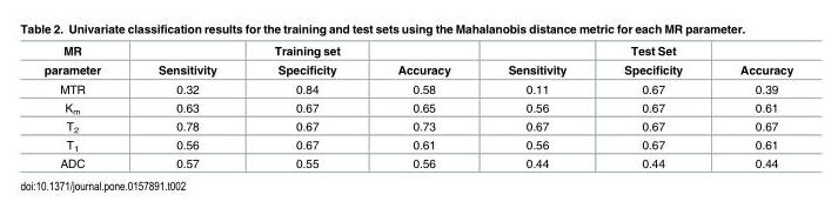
<table><thead><tr><td rowspan="2">MR parameter</td><td rowspan="2">Sensitivity</td><td rowspan="2">Training set Specificity</td><td rowspan="2">Accuracy</td><td rowspan="2">Sensitivity</td><td rowspan="2">Test Set Specificity</td><td rowspan="2">Accuracy</td></tr><tr></tr></thead><tbody><tr><td>MTR</td><td>0.32</td><td>0.84</td><td>0.58</td><td>0.11</td><td>0.67</td><td>0.39</td></tr><tr><td>K<sub>m</sub></td><td>0.63</td><td>0.67</td><td>0.65</td><td>0.56</td><td>0.67</td><td>0.61</td></tr><tr><td>T<sub>2</sub></td><td>0.78</td><td>0.67</td><td>0.73</td><td>0.67</td><td>0.67</td><td>0.67</td></tr><tr><td>T<sub>1</sub></td><td>0.56</td><td>0.67</td><td>0.61</td><td>0.56</td><td>0.67</td><td>0.61</td></tr><tr><td>ADC</td><td>0.57</td><td>0.55</td><td>0.56</td><td>0.44</td><td>0.44</td><td>0.44</td></tr></tbody></table>